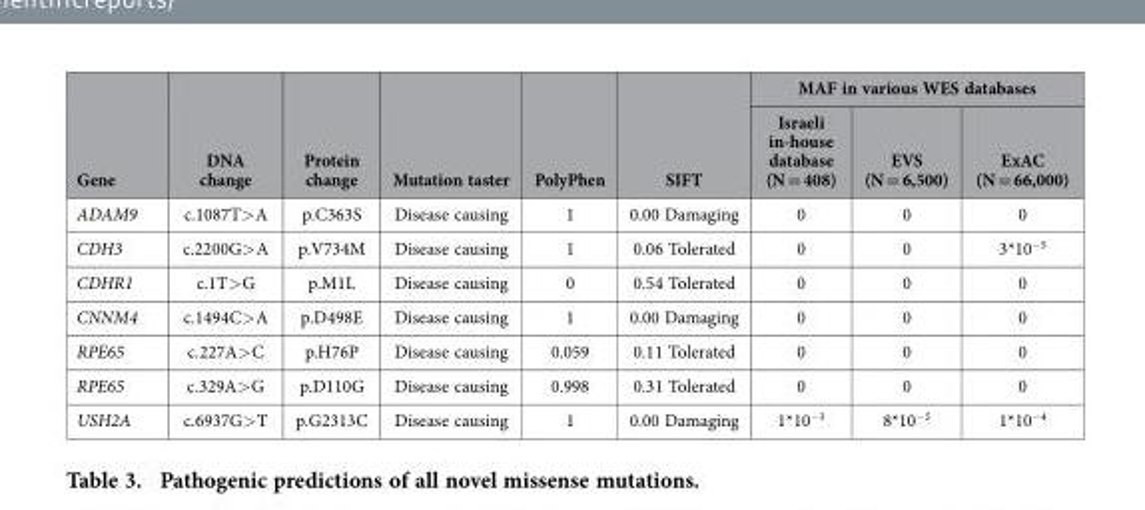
<table><thead><tr><td rowspan="2">Gene</td><td rowspan="2">DNA change</td><td rowspan="2">Protein change</td><td rowspan="2">Mutation taster</td><td rowspan="2">PolyPhen</td><td rowspan="2">SIFT</td><td colspan="3">MAF in various WES databases</td></tr><tr><td>Israeli in-house database (N = 408)</td><td>EVS (N = 6,500)</td><td>ExAC (N = 66,000)</td></tr></thead><tbody><tr><td>ADAM9</td><td>c.1087T&gt; A</td><td>p.C363S</td><td>Disease causing</td><td>1</td><td>0.00 Damaging</td><td>0</td><td>0</td><td>0</td></tr><tr><td>CDH3</td><td>c.2200G&gt; A</td><td>p.V734M</td><td>Disease causing</td><td>1</td><td>0.06 Tolerated</td><td>0</td><td>0</td><td>3*10<sup>−5</sup></td></tr><tr><td>CDHR1</td><td>c.1T&gt; G</td><td>p.M1L</td><td>Disease causing</td><td>0</td><td>0.54 Tolerated</td><td>0</td><td>0</td><td>0</td></tr><tr><td>CNNM4</td><td>c.1494C&gt; A</td><td>p.D498E</td><td>Disease causing</td><td>1</td><td>0.00 Damaging</td><td>0</td><td>0</td><td>0</td></tr><tr><td>RPE65</td><td>c.227A&gt; C</td><td>p.H76P</td><td>Disease causing</td><td>0.059</td><td>0.11 Tolerated</td><td>0</td><td>0</td><td>0</td></tr><tr><td>RPE65</td><td>c.329A&gt; G</td><td>p.D110G</td><td>Disease causing</td><td>0.998</td><td>0.31 Tolerated</td><td>0</td><td>0</td><td>0</td></tr><tr><td>USH2A</td><td>c.6937G&gt; T</td><td>p.G2313C</td><td>Disease causing</td><td>1</td><td>0.00 Damaging</td><td>1*10<sup>−3</sup></td><td>8*10<sup>−5</sup></td><td>1*10<sup>−4</sup></td></tr></tbody></table>